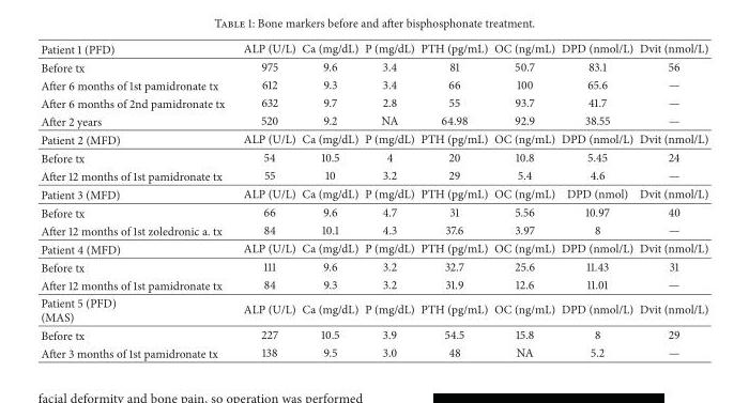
<table><thead><tr><td>Patient 1 (PFD)</td><td>ALP (U/L)</td><td>Ca (mg/dL)</td><td>P (mg/dL)</td><td>PTH (pg/mL)</td><td>OC (ng/mL)</td><td>DPD (nmol/L)</td><td>Dvit (nmol/L)</td></tr></thead><tbody><tr><td>Before tx</td><td>975</td><td>9.6</td><td>3.4</td><td>81</td><td>50.7</td><td>83.1</td><td>56</td></tr><tr><td>After 6 months of 1st pamidronate tx</td><td>612</td><td>9.3</td><td>3.4</td><td>66</td><td>100</td><td>65.6</td><td>—</td></tr><tr><td>After 6 months of 2nd pamidronate tx</td><td>632</td><td>9.7</td><td>2.8</td><td>55</td><td>93.7</td><td>41.7</td><td>—</td></tr><tr><td>After 2 years</td><td>520</td><td>9.2</td><td>NA</td><td>64.98</td><td>92.9</td><td>38.55</td><td>—</td></tr><tr><td>Patient 2 (MFD)</td><td>ALP (U/L)</td><td>Ca (mg/dL)</td><td>P (mg/dL)</td><td>PTH (pg/mL)</td><td>OC (ng/mL)</td><td>DPD (nmol/L)</td><td>Dvit (nmol/L)</td></tr><tr><td>Before tx</td><td>54</td><td>10.5</td><td>4</td><td>20</td><td>10.8</td><td>5.45</td><td>24</td></tr><tr><td>After 12 months of 1st pamidronate tx</td><td>55</td><td>10</td><td>3.2</td><td>29</td><td>5.4</td><td>4.6</td><td>—</td></tr><tr><td>Patient 3 (MFD)</td><td>ALP (U/L)</td><td>Ca (mg/dL)</td><td>P (mg/dL)</td><td>PTH (pg/mL)</td><td>OC (ng/mL)</td><td>DPD (nmol)</td><td>Dvit (nmol/L)</td></tr><tr><td>Before tx</td><td>66</td><td>9.6</td><td>4.7</td><td>31</td><td>5.56</td><td>10.97</td><td>40</td></tr><tr><td>After 12 months of 1st zoledronic a. tx</td><td>84</td><td>10.1</td><td>4.3</td><td>37.6</td><td>3.97</td><td>8</td><td>—</td></tr><tr><td>Patient 4 (MFD)</td><td>ALP (U/L)</td><td>Ca (mg/dL)</td><td>P (mg/dL)</td><td>PTH (pg/mL)</td><td>OC (ng/mL)</td><td>DPD (nmol/L)</td><td>Dvit (nmol/L)</td></tr><tr><td>Before tx</td><td>111</td><td>9.6</td><td>3.2</td><td>32.7</td><td>25.6</td><td>11.43</td><td>31</td></tr><tr><td>After 12 months of 1st pamidronate tx</td><td>84</td><td>9.3</td><td>3.2</td><td>31.9</td><td>12.6</td><td>11.01</td><td>—</td></tr><tr><td>Patient 5 (PFD) (MAS)</td><td>ALP (U/L)</td><td>Ca (mg/dL)</td><td>P (mg/dL)</td><td>PTH (pg/mL)</td><td>OC (ng/mL)</td><td>DPD (nmol/L)</td><td>Dvit (nmol/L)</td></tr><tr><td>Before tx</td><td>227</td><td>10.5</td><td>3.9</td><td>54.5</td><td>15.8</td><td>8</td><td>29</td></tr><tr><td>After 3 months of 1st pamidronate tx</td><td>138</td><td>9.5</td><td>3.0</td><td>48</td><td>NA</td><td>5.2</td><td>—</td></tr></tbody></table>